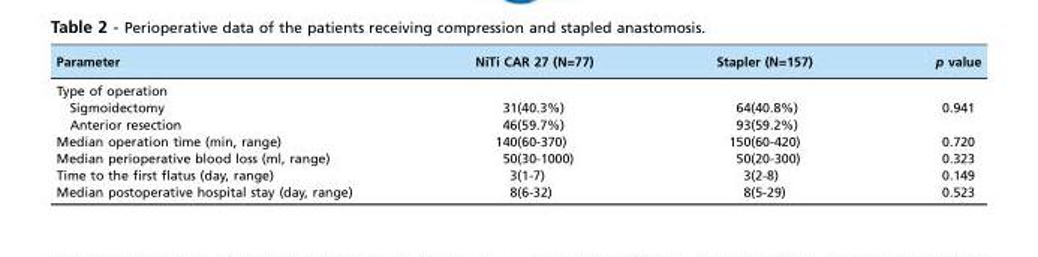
<table><thead><tr><td>Parameter</td><td>NiTi CAR 27 (N=77)</td><td>Stapler (N=157)</td><td>p value</td></tr></thead><tbody><tr><td colspan="4">Type of operation</td></tr><tr><td>Sigmoidectomy</td><td>31(40.3%)</td><td>64(40.8%)</td><td>0.941</td></tr><tr><td>Anterior resection</td><td>46(59.7%)</td><td>93(59.2%)</td><td></td></tr><tr><td>Median operation time (min, range)</td><td>140(60-370)</td><td>150(60-420)</td><td>0.720</td></tr><tr><td>Median perioperative blood loss (ml, range)</td><td>50(30-1000)</td><td>50(20-300)</td><td>0.323</td></tr><tr><td>Time to the first flatus (day, range)</td><td>3(1-7)</td><td>3(2-8)</td><td>0.149</td></tr><tr><td>Median postoperative hospital stay (day, range)</td><td>8(6-32)</td><td>8(5-29)</td><td>0.523</td></tr></tbody></table>